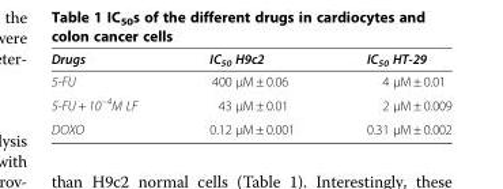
<table><thead><tr><td>Drugs</td><td>IC<sub>50</sub> H9c2</td><td>IC<sub>50</sub> HT-29</td></tr></thead><tbody><tr><td>5-FU</td><td>400 μM ± 0.06</td><td>4 μM ± 0.01</td></tr><tr><td>5-FU + 10<sup>−4</sup>M LF</td><td>43 μM ± 0.01</td><td>2 μM ± 0.009</td></tr><tr><td>DOXO</td><td>0.12 μM ± 0.001</td><td>0.31 μM ± 0.002</td></tr></tbody></table>